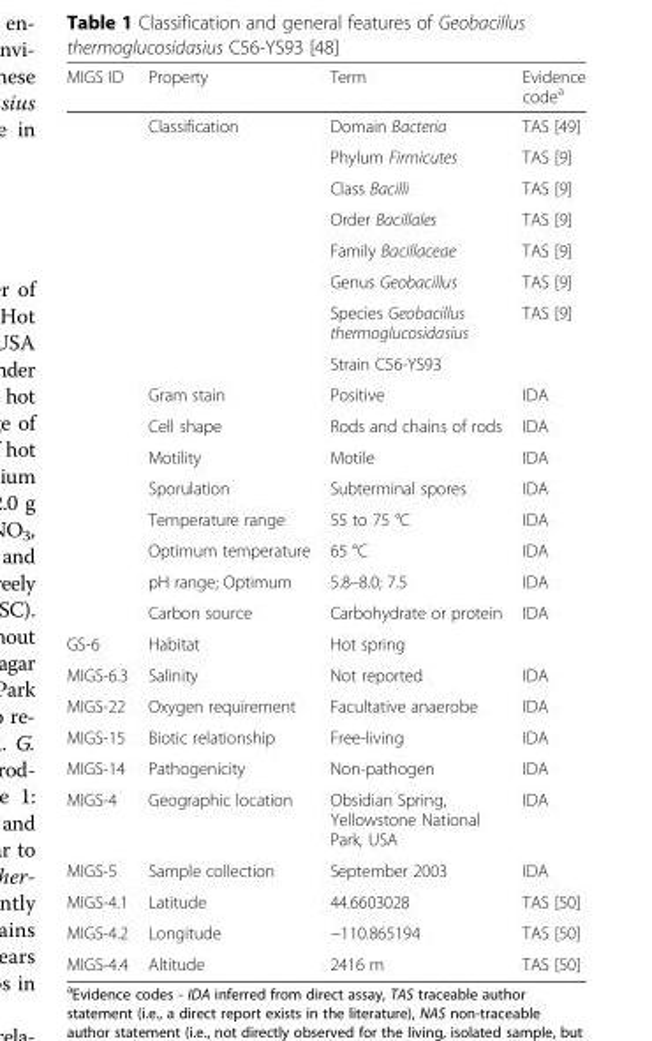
<table><thead><tr><td>MIGS ID</td><td>Property</td><td>Term</td><td>Evidence code<sup>a</sup></td></tr></thead><tbody><tr><td rowspan="16"></td><td rowspan="8">Classification</td><td>Domain Bacteria</td><td>TAS [49]</td></tr><tr><td>Phylum Firmicutes</td><td>TAS [9]</td></tr><tr><td>Class Bacilli</td><td>TAS [9]</td></tr><tr><td>Order Bacillales</td><td>TAS [9]</td></tr><tr><td>Family Bacillaceae</td><td>TAS [9]</td></tr><tr><td>Genus Geobacillus</td><td>TAS [9]</td></tr><tr><td>Species Geobacillus thermoglucosidasius</td><td rowspan="2">TAS [9]</td></tr><tr><td>Strain C56-YS93</td></tr><tr><td>Gram stain</td><td>Positive</td><td>IDA</td></tr><tr><td>Cell shape</td><td>Rods and chains of rods</td><td>IDA</td></tr><tr><td>Motility</td><td>Motile</td><td>IDA</td></tr><tr><td>Sporulation</td><td>Subterminal spores</td><td>IDA</td></tr><tr><td>Temperature range</td><td>55 to 75 °C</td><td>IDA</td></tr><tr><td>Optimum temperature</td><td>65 °C</td><td>IDA</td></tr><tr><td>pH range; Optimum</td><td>5.8–8.0; 7.5</td><td>IDA</td></tr><tr><td>Carbon source</td><td>Carbohydrate or protein</td><td>IDA</td></tr><tr><td>GS-6</td><td>Habitat</td><td>Hot spring</td><td></td></tr><tr><td>MIGS-6.3</td><td>Salinity</td><td>Not reported</td><td>IDA</td></tr><tr><td>MIGS-22</td><td>Oxygen requirement</td><td>Facultative anaerobe</td><td>IDA</td></tr><tr><td>MIGS-15</td><td>Biotic relationship</td><td>Free-living</td><td>IDA</td></tr><tr><td>MIGS-14</td><td>Pathogenicity</td><td>Non-pathogen</td><td>IDA</td></tr><tr><td>MIGS-4</td><td>Geographic location</td><td>Obsidian Spring, Yellowstone National Park, USA</td><td>IDA</td></tr><tr><td>MIGS-5</td><td>Sample collection</td><td>September 2003</td><td>IDA</td></tr><tr><td>MIGS-4.1</td><td>Latitude</td><td>44.6603028</td><td>TAS [50]</td></tr><tr><td>MIGS-4.2</td><td>Longitude</td><td>−110.865194</td><td>TAS [50]</td></tr><tr><td>MIGS-4.4</td><td>Altitude</td><td>2416 m</td><td>TAS [50]</td></tr></tbody></table>